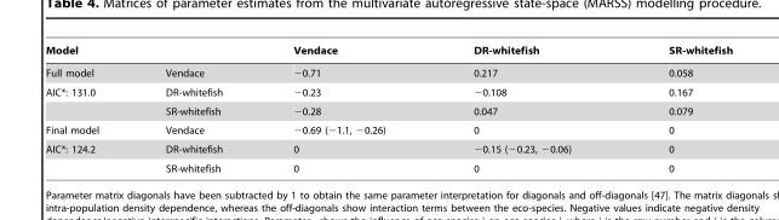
<table><thead><tr><td>Model</td><td></td><td>Vendace</td><td>DR-whitefish</td><td>SR-whitefish</td></tr></thead><tbody><tr><td>Full model</td><td>Vendace</td><td>−0.71</td><td>0.217</td><td>0.058</td></tr><tr><td rowspan="2">AIC*: 131.0</td><td>DR-whitefish</td><td>−0.23</td><td>−0.108</td><td>0.167</td></tr><tr><td>SR-whitefish</td><td>−0.28</td><td>0.047</td><td>0.079</td></tr><tr><td>Final model</td><td>Vendace</td><td>−0.69 (−1.1, −0.26)</td><td>0</td><td>0</td></tr><tr><td rowspan="2">AIC*: 124.2</td><td>DR-whitefish</td><td>0</td><td>−0.15 (−0.23, −0.06)</td><td>0</td></tr><tr><td>SR-whitefish</td><td>0</td><td>0</td><td>0</td></tr></tbody></table>